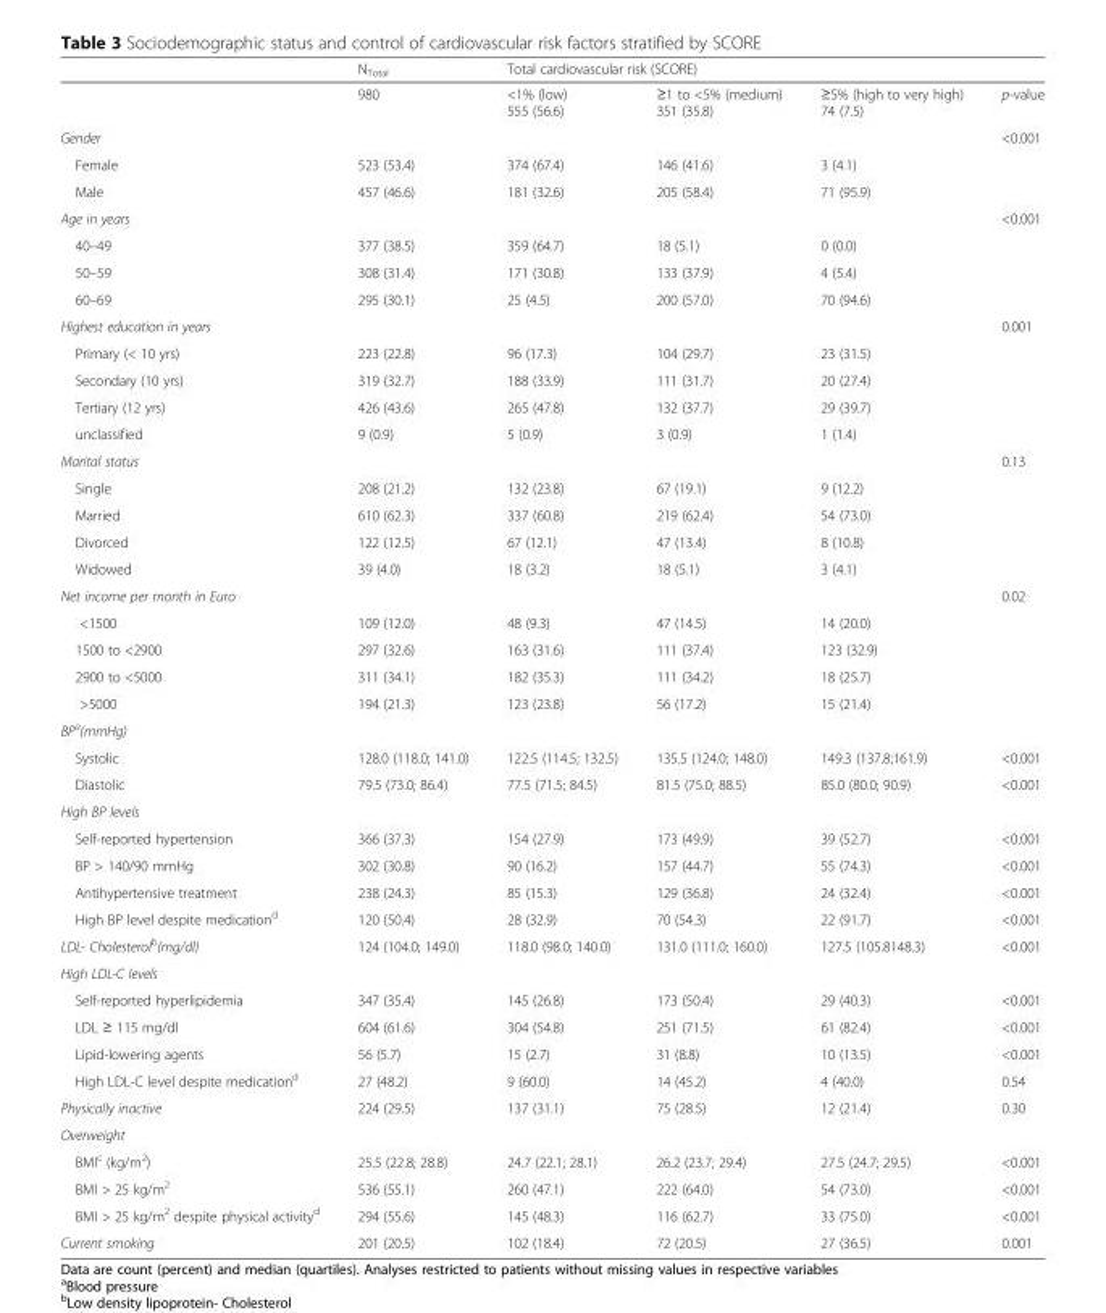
<table><thead><tr><td rowspan="2"></td><td rowspan="2">N<sub>Total</sub> 980</td><td colspan="4">Total cardiovascular risk (SCORE)</td></tr><tr><td>&lt;1% (low) 555 (56.6)</td><td>≥1 to &lt;5% (medium) 351 (35.8)</td><td>≥5% (high to very high) 74 (7.5)</td><td>p-value</td></tr></thead><tbody><tr><td>Gender</td><td colspan="4"></td><td>&lt;0.001</td></tr><tr><td>Female</td><td>523 (53.4)</td><td>374 (67.4)</td><td>146 (41.6)</td><td>3 (4.1)</td><td></td></tr><tr><td>Male</td><td>457 (46.6)</td><td>181 (32.6)</td><td>205 (58.4)</td><td>71 (95.9)</td><td></td></tr><tr><td colspan="5">Age in years</td><td>&lt;0.001</td></tr><tr><td>40–49</td><td>377 (38.5)</td><td>359 (64.7)</td><td>18 (5.1)</td><td>0 (0.0)</td><td></td></tr><tr><td>50–59</td><td>308 (31.4)</td><td>171 (30.8)</td><td>133 (37.9)</td><td>4 (5.4)</td><td></td></tr><tr><td>60–69</td><td>295 (30.1)</td><td>25 (4.5)</td><td>200 (57.0)</td><td>70 (94.6)</td><td></td></tr><tr><td>Highest education in years</td><td colspan="4"></td><td>0.001</td></tr><tr><td>Primary (&lt; 10 yrs)</td><td>223 (22.8)</td><td>96 (17.3)</td><td>104 (29.7)</td><td>23 (31.5)</td><td></td></tr><tr><td>Secondary (10 yrs)</td><td>319 (32.7)</td><td>188 (33.9)</td><td>111 (31.7)</td><td>20 (27.4)</td><td></td></tr><tr><td>Tertiary (12 yrs)</td><td>426 (43.6)</td><td>265 (47.8)</td><td>132 (37.7)</td><td>29 (39.7)</td><td></td></tr><tr><td>unclassified</td><td>9 (0.9)</td><td>5 (0.9)</td><td>3 (0.9)</td><td>1 (1.4)</td><td></td></tr><tr><td>Marital status</td><td colspan="4"></td><td>0.13</td></tr><tr><td>Single</td><td>208 (21.2)</td><td>132 (23.8)</td><td>67 (19.1)</td><td>9 (12.2)</td><td></td></tr><tr><td>Married</td><td>610 (62.3)</td><td>337 (60.8)</td><td>219 (62.4)</td><td>54 (73.0)</td><td></td></tr><tr><td>Divorced</td><td>122 (12.5)</td><td>67 (12.1)</td><td>47 (13.4)</td><td>8 (10.8)</td><td></td></tr><tr><td>Widowed</td><td>39 (4.0)</td><td>18 (3.2)</td><td>18 (5.1)</td><td>3 (4.1)</td><td></td></tr><tr><td>Net income per month in Euro</td><td></td><td></td><td></td><td></td><td>0.02</td></tr><tr><td>&lt;1500</td><td>109 (12.0)</td><td>48 (9.3)</td><td>47 (14.5)</td><td>14 (20.0)</td><td></td></tr><tr><td>1500 to &lt;2900</td><td>297 (32.6)</td><td>163 (31.6)</td><td>111 (37.4)</td><td>123 (32.9)</td><td></td></tr><tr><td>2900 to &lt;5000</td><td>311 (34.1)</td><td>182 (35.3)</td><td>111 (34.2)</td><td>18 (25.7)</td><td></td></tr><tr><td>&gt;5000</td><td>194 (21.3)</td><td>123 (23.8)</td><td>56 (17.2)</td><td>15 (21.4)</td><td></td></tr><tr><td colspan="6">BP<sup>a</sup>(mmHg)</td></tr><tr><td>Systolic</td><td>128.0 (118.0; 141.0)</td><td>122.5 (114.5; 132.5)</td><td>135.5 (124.0; 148.0)</td><td>149.3 (137.8;161.9)</td><td>&lt;0.001</td></tr><tr><td>Diastolic</td><td>79.5 (73.0; 86.4)</td><td>77.5 (71.5; 84.5)</td><td>81.5 (75.0; 88.5)</td><td>85.0 (80.0; 90.9)</td><td>&lt;0.001</td></tr><tr><td colspan="6">High BP levels</td></tr><tr><td>Self-reported hypertension</td><td>366 (37.3)</td><td>154 (27.9)</td><td>173 (49.9)</td><td>39 (52.7)</td><td>&lt;0.001</td></tr><tr><td>BP &gt; 140/90 mmHg</td><td>302 (30.8)</td><td>90 (16.2)</td><td>157 (44.7)</td><td>55 (74.3)</td><td>&lt;0.001</td></tr><tr><td>Antihypertensive treatment</td><td>238 (24.3)</td><td>85 (15.3)</td><td>129 (36.8)</td><td>24 (32.4)</td><td>&lt;0.001</td></tr><tr><td>High BP level despite medication<sup>d</sup></td><td>120 (50.4)</td><td>28 (32.9)</td><td>70 (54.3)</td><td>22 (91.7)</td><td>&lt;0.001</td></tr><tr><td>LDL- Cholesterol<sup>b</sup>(mg/dl)</td><td>124 (104.0; 149.0)</td><td>118.0 (98.0; 140.0)</td><td>131.0 (111.0; 160.0)</td><td>127.5 (105.8148.3)</td><td>&lt;0.001</td></tr><tr><td colspan="6">High LDL-C levels</td></tr><tr><td>Self-reported hyperlipidemia</td><td>347 (35.4)</td><td>145 (26.8)</td><td>173 (50.4)</td><td>29 (40.3)</td><td>&lt;0.001</td></tr><tr><td>LDL ≥ 115 mg/dl</td><td>604 (61.6)</td><td>304 (54.8)</td><td>251 (71.5)</td><td>61 (82.4)</td><td>&lt;0.001</td></tr><tr><td>Lipid-lowering agents</td><td>56 (5.7)</td><td>15 (2.7)</td><td>31 (8.8)</td><td>10 (13.5)</td><td>&lt;0.001</td></tr><tr><td>High LDL-C level despite medication<sup>d</sup></td><td>27 (48.2)</td><td>9 (60.0)</td><td>14 (45.2)</td><td>4 (40.0)</td><td>0.54</td></tr><tr><td>Physically inactive</td><td>224 (29.5)</td><td>137 (31.1)</td><td>75 (28.5)</td><td>12 (21.4)</td><td>0.30</td></tr><tr><td colspan="6">Overweight</td></tr><tr><td>BMI<sup>c</sup> (kg/m<sup>2</sup>)</td><td>25.5 (22.8; 28.8)</td><td>24.7 (22.1; 28.1)</td><td>26.2 (23.7; 29.4)</td><td>27.5 (24.7; 29.5)</td><td>&lt;0.001</td></tr><tr><td>BMI &gt; 25 kg/m<sup>2</sup></td><td>536 (55.1)</td><td>260 (47.1)</td><td>222 (64.0)</td><td>54 (73.0)</td><td>&lt;0.001</td></tr><tr><td>BMI &gt; 25 kg/m<sup>2</sup> despite physical activity<sup>d</sup></td><td>294 (55.6)</td><td>145 (48.3)</td><td>116 (62.7)</td><td>33 (75.0)</td><td>&lt;0.001</td></tr><tr><td>Current smoking</td><td>201 (20.5)</td><td>102 (18.4)</td><td>72 (20.5)</td><td>27 (36.5)</td><td>0.001</td></tr></tbody></table>